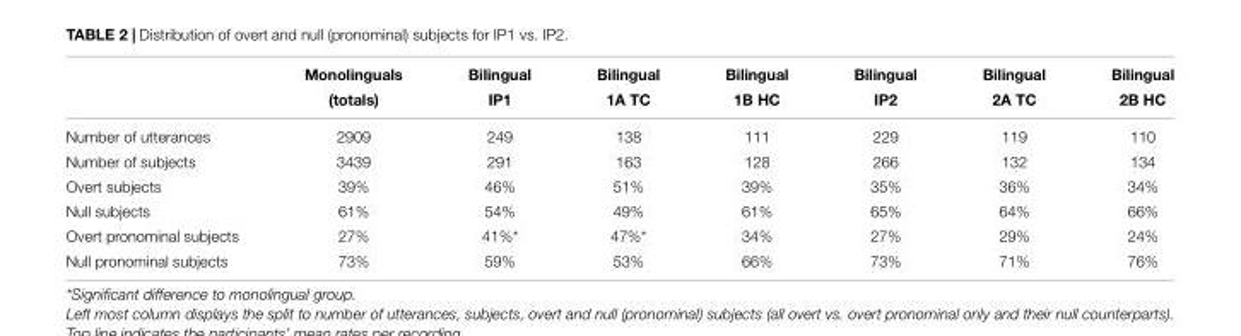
<table><thead><tr><td></td><td>Monolinguals (totals)</td><td>Bilingual IP1</td><td>Bilingual 1A TC</td><td>Bilingual 1B HC</td><td>Bilingual IP2</td><td>Bilingual 2A TC</td><td>Bilingual 2B HC</td></tr></thead><tbody><tr><td>Number of utterances</td><td>2909</td><td>249</td><td>138</td><td>111</td><td>229</td><td>119</td><td>110</td></tr><tr><td>Number of subjects</td><td>3439</td><td>291</td><td>163</td><td>128</td><td>266</td><td>132</td><td>134</td></tr><tr><td>Overt subjects</td><td>39%</td><td>46%</td><td>51%</td><td>39%</td><td>35%</td><td>36%</td><td>34%</td></tr><tr><td>Null subjects</td><td>61%</td><td>54%</td><td>49%</td><td>61%</td><td>65%</td><td>64%</td><td>66%</td></tr><tr><td>Overt pronominal subjects</td><td>27%</td><td>41%*</td><td>47%*</td><td>34%</td><td>27%</td><td>29%</td><td>24%</td></tr><tr><td>Null pronominal subjects</td><td>73%</td><td>59%</td><td>53%</td><td>66%</td><td>73%</td><td>71%</td><td>76%</td></tr></tbody></table>